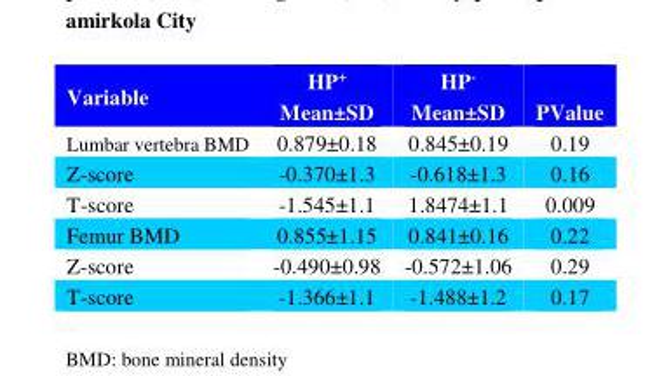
<table><thead><tr><td>PValue</td><td>HP<sup>-</sup> Mean±SD</td><td>HP<sup>+</sup> Mean±SD</td><td>Variable</td></tr></thead><tbody><tr><td>0.19</td><td>0.845±0.19</td><td>0.879±0.18</td><td>Lumbar vertebra BMD</td></tr><tr><td>0.16</td><td>-0.618±1.3</td><td>-0.370±1.3</td><td>Z-score</td></tr><tr><td>0.009</td><td>1.8474±1.1</td><td>-1.545±1.1</td><td>T-score</td></tr><tr><td>0.22</td><td>0.841±0.16</td><td>0.855±1.15</td><td>Femur BMD</td></tr><tr><td>0.29</td><td>-0.572±1.06</td><td>-0.490±0.98</td><td>Z-score</td></tr><tr><td>0.17</td><td>-1.488±1.2</td><td>-1.366±1.1</td><td>T-score</td></tr></tbody></table>